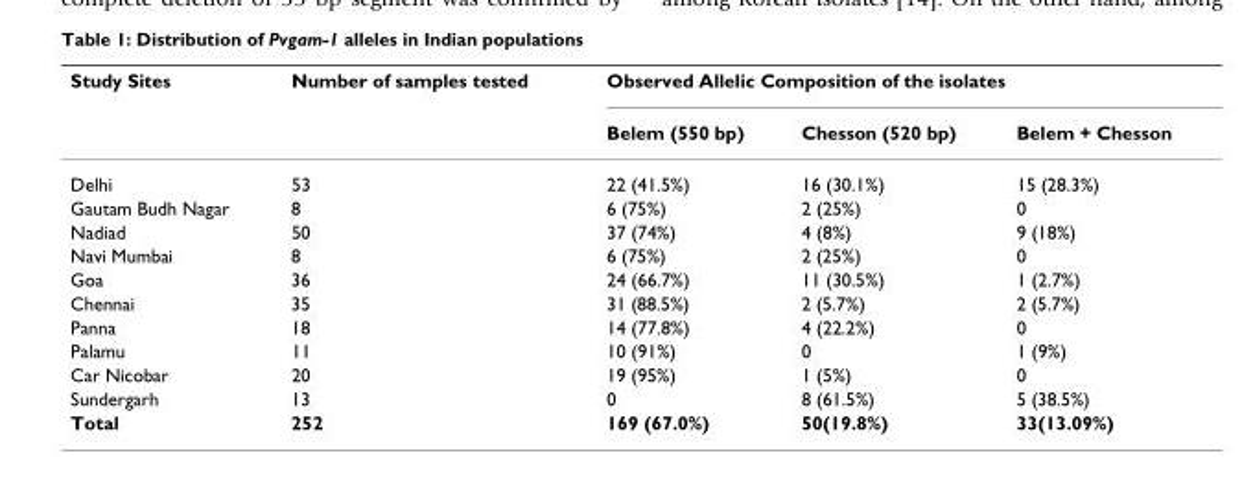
<table><thead><tr><td rowspan="2">Study Sites</td><td rowspan="2">Number of samples tested</td><td colspan="3">Observed Allelic Composition of the isolates</td></tr><tr><td>Belem (550 bp)</td><td>Chesson (520 bp)</td><td>Belem + Chesson</td></tr></thead><tbody><tr><td>Delhi</td><td>53</td><td>22 (41.5%)</td><td>16 (30.1%)</td><td>15 (28.3%)</td></tr><tr><td>Gautam Budh Nagar</td><td>8</td><td>6 (75%)</td><td>2 (25%)</td><td>0</td></tr><tr><td>Nadiad</td><td>50</td><td>37 (74%)</td><td>4 (8%)</td><td>9 (18%)</td></tr><tr><td>Navi Mumbai</td><td>8</td><td>6 (75%)</td><td>2 (25%)</td><td>0</td></tr><tr><td>Goa</td><td>36</td><td>24 (66.7%)</td><td>11 (30.5%)</td><td>1 (2.7%)</td></tr><tr><td>Chennai</td><td>35</td><td>31 (88.5%)</td><td>2 (5.7%)</td><td>2 (5.7%)</td></tr><tr><td>Panna</td><td>18</td><td>14 (77.8%)</td><td>4 (22.2%)</td><td>0</td></tr><tr><td>Palamu</td><td>11</td><td>10 (91%)</td><td>0</td><td>1 (9%)</td></tr><tr><td>Car Nicobar</td><td>20</td><td>19 (95%)</td><td>1 (5%)</td><td>0</td></tr><tr><td>Sundergarh</td><td>13</td><td>0</td><td>8 (61.5%)</td><td>5 (38.5%)</td></tr><tr><td>Total</td><td>252</td><td>169 (67.0%)</td><td>50(19.8%)</td><td>33(13.09%)</td></tr></tbody></table>